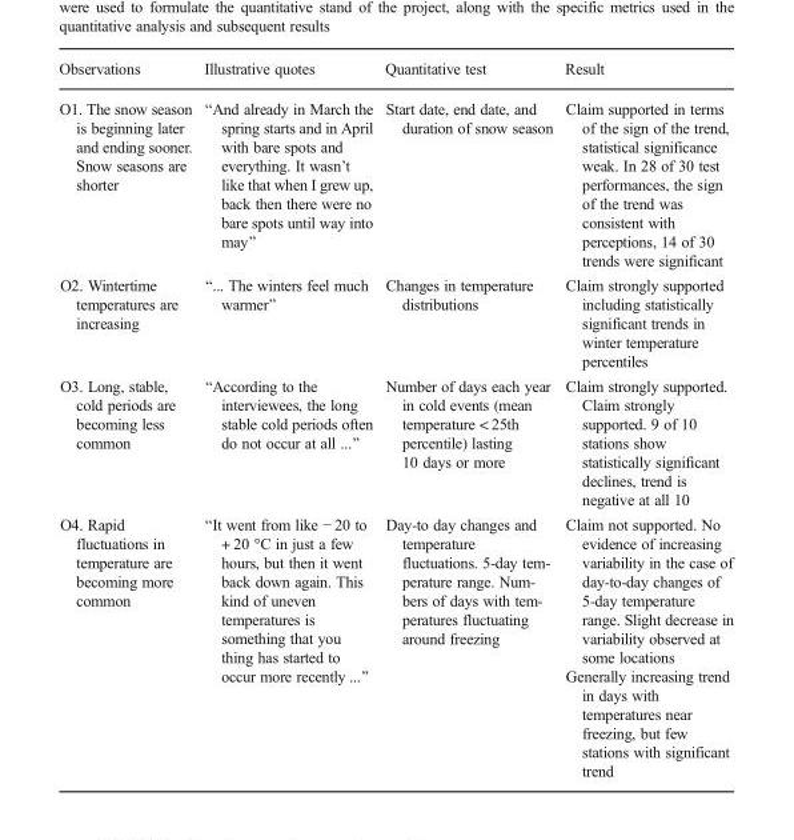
<table><thead><tr><td>Observations</td><td>Illustrative quotes</td><td>Quantitative test</td><td>Result</td></tr></thead><tbody><tr><td>O1. The snow season is beginning later and ending sooner. Snow seasons are shorter</td><td>“And already in March the spring starts and in April with bare spots and everything. It wasn’t like that when I grew up, back then there were no bare spots until way into may”</td><td>Start date, end date, and duration of snow season</td><td>Claim supported in terms of the sign of the trend, statistical significance weak. In 28 of 30 test performances, the sign of the trend was consistent with perceptions, 14 of 30 trends were significant</td></tr><tr><td>O2. Wintertime temperatures are increasing</td><td>“... The winters feel much warmer”</td><td>Changes in temperature distributions</td><td>Claim strongly supported including statistically significant trends in winter temperature percentiles</td></tr><tr><td>O3. Long, stable, cold periods are becoming less common</td><td>“According to the interviewees, the long stable cold periods often do not occur at all ...”</td><td>Number of days each year in cold events (mean temperature &lt; 25th percentile) lasting 10 days or more</td><td>Claim strongly supported. Claim strongly supported. 9 of 10 stations show statistically significant declines, trend is negative at all 10</td></tr><tr><td>O4. Rapid fluctuations in temperature are becoming more common</td><td>“It went from like − 20 to + 20 °C in just a few hours, but then it went back down again. This kind of uneven temperatures is something that you thing has started to occur more recently ...”</td><td>Day-to day changes and temperature fluctuations. 5-day tem- perature range. Num- bers of days with tem- peratures fluctuating around freezing</td><td>Claim not supported. No evidence of increasing variability in the case of day-to-day changes of 5-day temperature range. Slight decrease in variability observed at some locations Generally increasing trend in days with temperatures near freezing, but few stations with significant trend</td></tr></tbody></table>